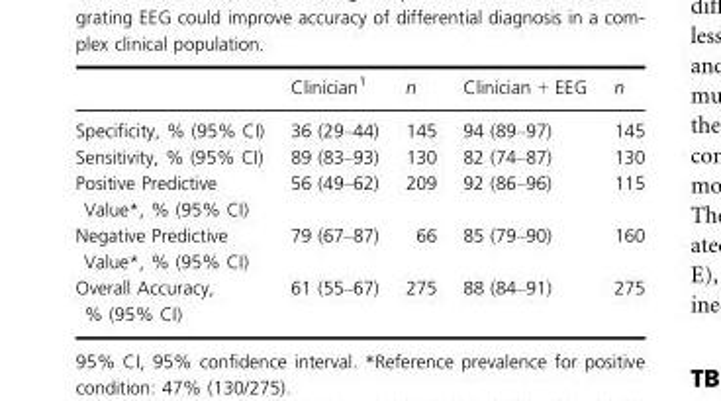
<table><thead><tr><td></td><td>Clinician<sup>1</sup></td><td>n</td><td>Clinician + EEG</td><td>n</td></tr></thead><tbody><tr><td>Specificity, % (95% CI)</td><td>36 (29–44)</td><td>145</td><td>94 (89–97)</td><td>145</td></tr><tr><td>Sensitivity, % (95% CI)</td><td>89 (83–93)</td><td>130</td><td>82 (74–87)</td><td>130</td></tr><tr><td>Positive Predictive Value*, % (95% CI)</td><td>56 (49–62)</td><td>209</td><td>92 (86–96)</td><td>115</td></tr><tr><td>Negative Predictive Value*, % (95% CI)</td><td>79 (67–87)</td><td>66</td><td>85 (79–90)</td><td>160</td></tr><tr><td>Overall Accuracy, % (95% CI)</td><td>61 (55–67)</td><td>275</td><td>88 (84–91)</td><td>275</td></tr></tbody></table>